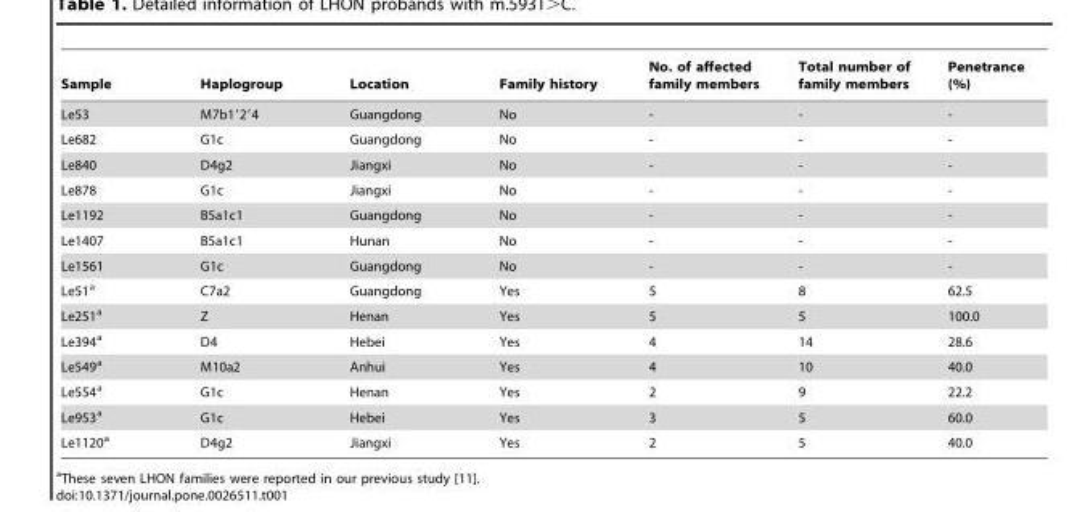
<table><thead><tr><td>Sample</td><td>Haplogroup</td><td>Location</td><td>Family history</td><td>No. of affected family members</td><td>Total number of family members</td><td>Penetrance (%)</td></tr></thead><tbody><tr><td>Le53</td><td>M7b1′2′4</td><td>Guangdong</td><td>No</td><td>-</td><td>-</td><td>-</td></tr><tr><td>Le682</td><td>G1c</td><td>Guangdong</td><td>No</td><td>-</td><td>-</td><td>-</td></tr><tr><td>Le840</td><td>D4g2</td><td>Jiangxi</td><td>No</td><td>-</td><td>-</td><td>-</td></tr><tr><td>Le878</td><td>G1c</td><td>Jiangxi</td><td>No</td><td>-</td><td>-</td><td>-</td></tr><tr><td>Le1192</td><td>B5a1c1</td><td>Guangdong</td><td>No</td><td>-</td><td>-</td><td>-</td></tr><tr><td>Le1407</td><td>B5a1c1</td><td>Hunan</td><td>No</td><td>-</td><td>-</td><td>-</td></tr><tr><td>Le1561</td><td>G1c</td><td>Guangdong</td><td>No</td><td>-</td><td>-</td><td>-</td></tr><tr><td>Le51<sup>a</sup></td><td>C7a2</td><td>Guangdong</td><td>Yes</td><td>5</td><td>8</td><td>62.5</td></tr><tr><td>Le251<sup>a</sup></td><td>Z</td><td>Henan</td><td>Yes</td><td>5</td><td>5</td><td>100.0</td></tr><tr><td>Le394<sup>a</sup></td><td>D4</td><td>Hebei</td><td>Yes</td><td>4</td><td>14</td><td>28.6</td></tr><tr><td>Le549<sup>a</sup></td><td>M10a2</td><td>Anhui</td><td>Yes</td><td>4</td><td>10</td><td>40.0</td></tr><tr><td>Le554<sup>a</sup></td><td>G1c</td><td>Henan</td><td>Yes</td><td>2</td><td>9</td><td>22.2</td></tr><tr><td>Le953<sup>a</sup></td><td>G1c</td><td>Hebei</td><td>Yes</td><td>3</td><td>5</td><td>60.0</td></tr><tr><td>Le1120<sup>a</sup></td><td>D4g2</td><td>Jiangxi</td><td>Yes</td><td>2</td><td>5</td><td>40.0</td></tr></tbody></table>